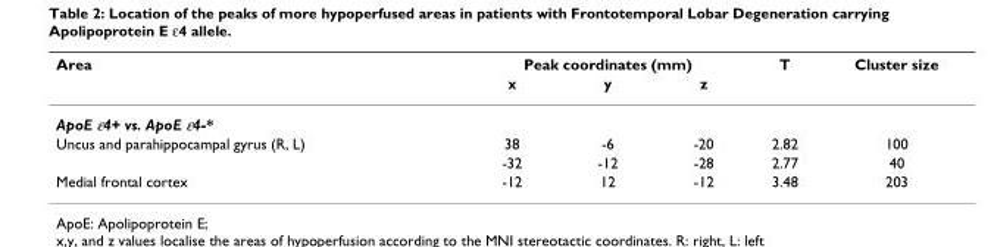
<table><thead><tr><td rowspan="2">Area</td><td colspan="3">Peak coordinates (mm)</td><td rowspan="2">T</td><td rowspan="2">Cluster size</td></tr><tr><td>x</td><td>y</td><td>z</td></tr></thead><tbody><tr><td colspan="6">ApoE ε4+ vs. ApoE ε4-*</td></tr><tr><td rowspan="2">Uncus and parahippocampal gyrus (R, L)</td><td>38</td><td>-6</td><td>-20</td><td>2.82</td><td>100</td></tr><tr><td>-32</td><td>-12</td><td>-28</td><td>2.77</td><td>40</td></tr><tr><td>Medial frontal cortex</td><td>-12</td><td>12</td><td>-12</td><td>3.48</td><td>203</td></tr></tbody></table>